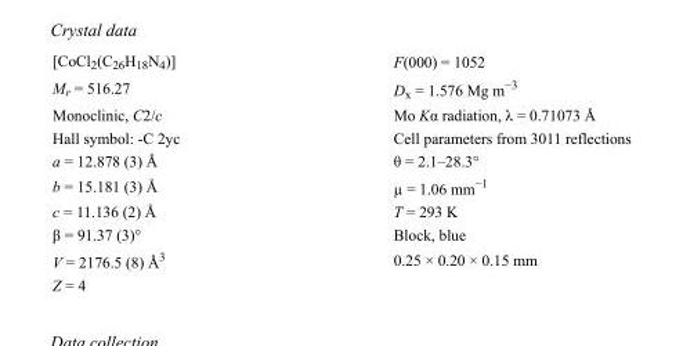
<table><tbody><tr><td>[CoCl<sub>2</sub>(C<sub>26</sub>H<sub>18</sub>N<sub>4</sub>)]</td><td>F(000) = 1052</td></tr><tr><td>M<sub>r</sub> = 516.27</td><td>D<sub>x</sub> = 1.576 Mg m<sup>−3</sup></td></tr><tr><td>Monoclinic, C2/c</td><td>Mo Kα radiation, λ = 0.71073 Å</td></tr><tr><td>Hall symbol: -C 2yc</td><td>Cell parameters from 3011 reflections</td></tr><tr><td>a = 12.878 (3) Å</td><td>θ = 2.1–28.3°</td></tr><tr><td>b = 15.181 (3) Å</td><td>µ = 1.06 mm<sup>−1</sup></td></tr><tr><td>c = 11.136 (2) Å</td><td>T = 293 K</td></tr><tr><td>β = 91.37 (3)°</td><td>Block, blue</td></tr><tr><td>V = 2176.5 (8) Å<sup>3</sup></td><td>0.25 × 0.20 × 0.15 mm</td></tr><tr><td>Z = 4</td><td></td></tr></tbody></table>